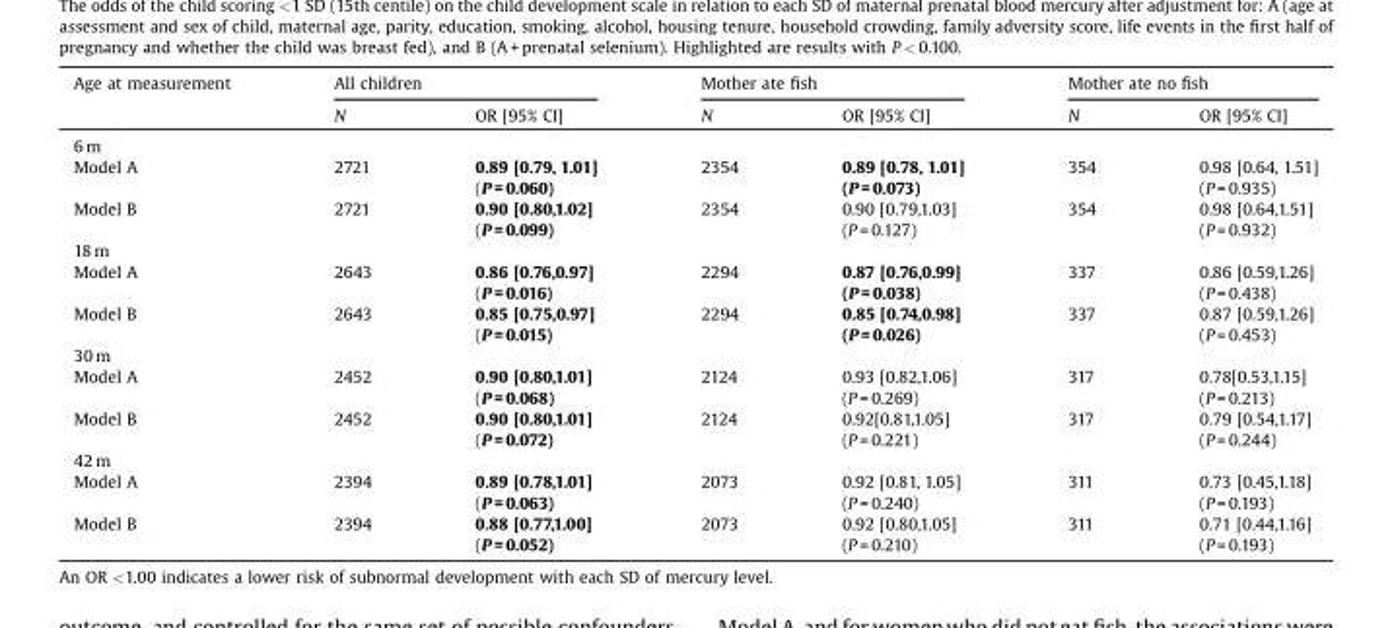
<table><thead><tr><td rowspan="2">Age at measurement</td><td colspan="2">All children</td><td colspan="2">Mother ate fish</td><td colspan="2">Mother ate no fish</td></tr><tr><td>N</td><td>OR [95% CI]</td><td>N</td><td>OR [95% CI]</td><td>N</td><td>OR [95% CI]</td></tr></thead><tbody><tr><td colspan="7">6 m</td></tr><tr><td rowspan="2">Model A</td><td>2721</td><td>0.89 [0.79, 1.01]</td><td>2354</td><td>0.89 [0.78, 1.01]</td><td>354</td><td>0.98 [0.64, 1.51]</td></tr><tr><td></td><td>(P = 0.060)</td><td></td><td>(P = 0.073)</td><td></td><td>(P = 0.935)</td></tr><tr><td rowspan="2">Model B</td><td>2721</td><td>0.90 [0.80,1.02]</td><td>2354</td><td>0.90 [0.79,1.03]</td><td>354</td><td>0.98 [0.64,1.51]</td></tr><tr><td></td><td>(P = 0.099)</td><td></td><td>(P = 0.127)</td><td></td><td>(P = 0.932)</td></tr><tr><td colspan="7">18 m</td></tr><tr><td rowspan="2">Model A</td><td>2643</td><td>0.86 [0.76,0.97]</td><td>2294</td><td>0.87 [0.76,0.99]</td><td>337</td><td>0.86 [0.59,1.26]</td></tr><tr><td></td><td>(P = 0.016)</td><td></td><td>(P = 0.038)</td><td></td><td>(P = 0.438)</td></tr><tr><td rowspan="2">Model B</td><td>2643</td><td>0.85 [0.75,0.97]</td><td>2294</td><td>0.85 [0.74,0.98]</td><td>337</td><td>0.87 [0.59,1.26]</td></tr><tr><td></td><td>(P = 0.015)</td><td></td><td>(P = 0.026)</td><td></td><td>(P = 0.453)</td></tr><tr><td colspan="7">30 m</td></tr><tr><td rowspan="2">Model A</td><td>2452</td><td>0.90 [0.80,1.01]</td><td>2124</td><td>0.93 [0.82,1.06]</td><td>317</td><td>0.78[0.53,1.15]</td></tr><tr><td></td><td>(P = 0.068)</td><td></td><td>(P = 0.269)</td><td></td><td>(P = 0.213)</td></tr><tr><td rowspan="2">Model B</td><td>2452</td><td>0.90 [0.80,1.01]</td><td>2124</td><td>0.92[0.81,1.05]</td><td>317</td><td>0.79 [0.54,1.17]</td></tr><tr><td></td><td>(P = 0.072)</td><td></td><td>(P = 0.221)</td><td></td><td>(P = 0.244)</td></tr><tr><td colspan="7">42 m</td></tr><tr><td rowspan="2">Model A</td><td>2394</td><td>0.89 [0.78,1.01]</td><td>2073</td><td>0.92 [0.81, 1.05]</td><td>311</td><td>0.73 [0.45,1.18]</td></tr><tr><td></td><td>(P = 0.063)</td><td></td><td>(P = 0.240)</td><td></td><td>(P = 0.193)</td></tr><tr><td rowspan="2">Model B</td><td>2394</td><td>0.88 [0.77,1.00]</td><td>2073</td><td>0.92 [0.80,1.05]</td><td>311</td><td>0.71 [0.44,1.16]</td></tr><tr><td></td><td>(P = 0.052)</td><td></td><td>(P = 0.210)</td><td></td><td>(P = 0.193)</td></tr></tbody></table>